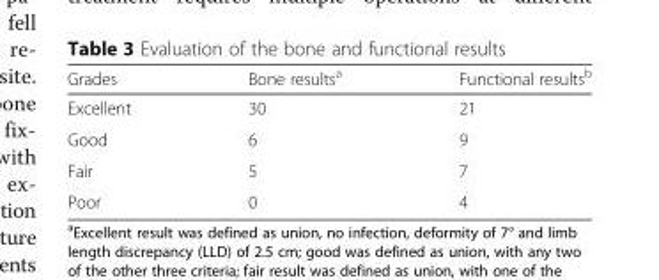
<table><thead><tr><td>Grades</td><td>Bone results<sup>a</sup></td><td>Functional results<sup>b</sup></td></tr></thead><tbody><tr><td>Excellent</td><td>30</td><td>21</td></tr><tr><td>Good</td><td>6</td><td>9</td></tr><tr><td>Fair</td><td>5</td><td>7</td></tr><tr><td>Poor</td><td>0</td><td>4</td></tr></tbody></table>